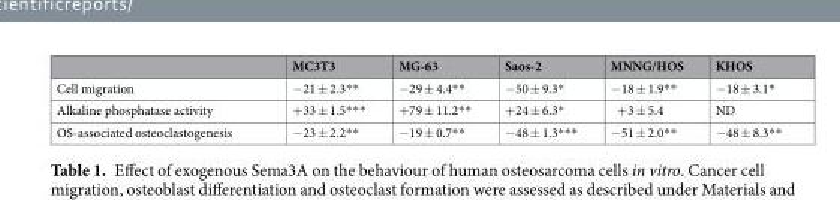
<table><thead><tr><td></td><td>MC3T3</td><td>MG-63</td><td>Saos-2</td><td>MNNG/HOS</td><td>KHOS</td></tr></thead><tbody><tr><td>Cell migration</td><td>−21 ± 2.3**</td><td>−29 ± 4.4**</td><td>−50 ± 9.3*</td><td>−18 ± 1.9**</td><td>−18 ± 3.1*</td></tr><tr><td>Alkaline phosphatase activity</td><td>+33 ± 1.5***</td><td>+79 ± 11.2**</td><td>+24 ± 6.3*</td><td>+3 ± 5.4</td><td>ND</td></tr><tr><td>OS-associated osteoclastogenesis</td><td>−23 ± 2.2**</td><td>−19 ± 0.7**</td><td>−48 ± 1.3***</td><td>−51 ± 2.0**</td><td>−48 ± 8.3**</td></tr></tbody></table>